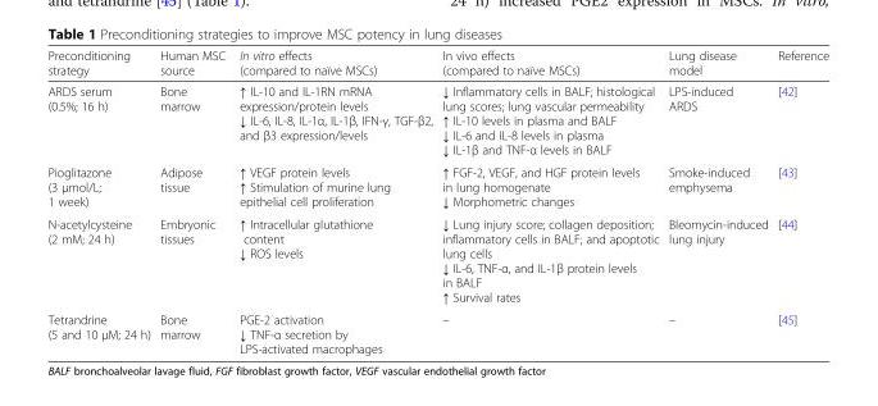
<table><thead><tr><td>Preconditioning strategy</td><td>Human MSC source</td><td>In vitro effects (compared to naïve MSCs)</td><td>In vivo effects (compared to naïve MSCs)</td><td>Lung disease model</td><td>Reference</td></tr></thead><tbody><tr><td>ARDS serum (0.5%; 16 h)</td><td>Bone marrow</td><td>↑ IL-10 and IL-1RN mRNA expression/protein levels ↓ IL-6, IL-8, IL-1α, IL-1β, IFN-γ, TGF-β2, and β3 expression/levels</td><td>↓ Inflammatory cells in BALF; histological lung scores; lung vascular permeability ↑ IL-10 levels in plasma and BALF ↓ IL-6 and IL-8 levels in plasma ↓ IL-1β and TNF-α levels in BALF</td><td>LPS-induced ARDS</td><td>[42]</td></tr><tr><td>Pioglitazone (3 μmol/L; 1 week)</td><td>Adipose tissue</td><td>↑ VEGF protein levels ↑ Stimulation of murine lung epithelial cell proliferation</td><td>↑ FGF-2, VEGF, and HGF protein levels in lung homogenate ↓ Morphometric changes</td><td>Smoke-induced emphysema</td><td>[43]</td></tr><tr><td>N-acetylcysteine (2 mM; 24 h)</td><td>Embryonic tissues</td><td>↑ Intracellular glutathione content ↓ ROS levels</td><td>↓ Lung injury score; collagen deposition; inflammatory cells in BALF; and apoptotic lung cells ↓ IL-6, TNF-α, and IL-1β protein levels in BALF ↑ Survival rates</td><td>Bleomycin-induced lung injury</td><td>[44]</td></tr><tr><td>Tetrandrine (5 and 10 μM; 24 h)</td><td>Bone marrow</td><td>PGE-2 activation ↓ TNF-α secretion by LPS-activated macrophages</td><td>–</td><td>–</td><td>[45]</td></tr></tbody></table>